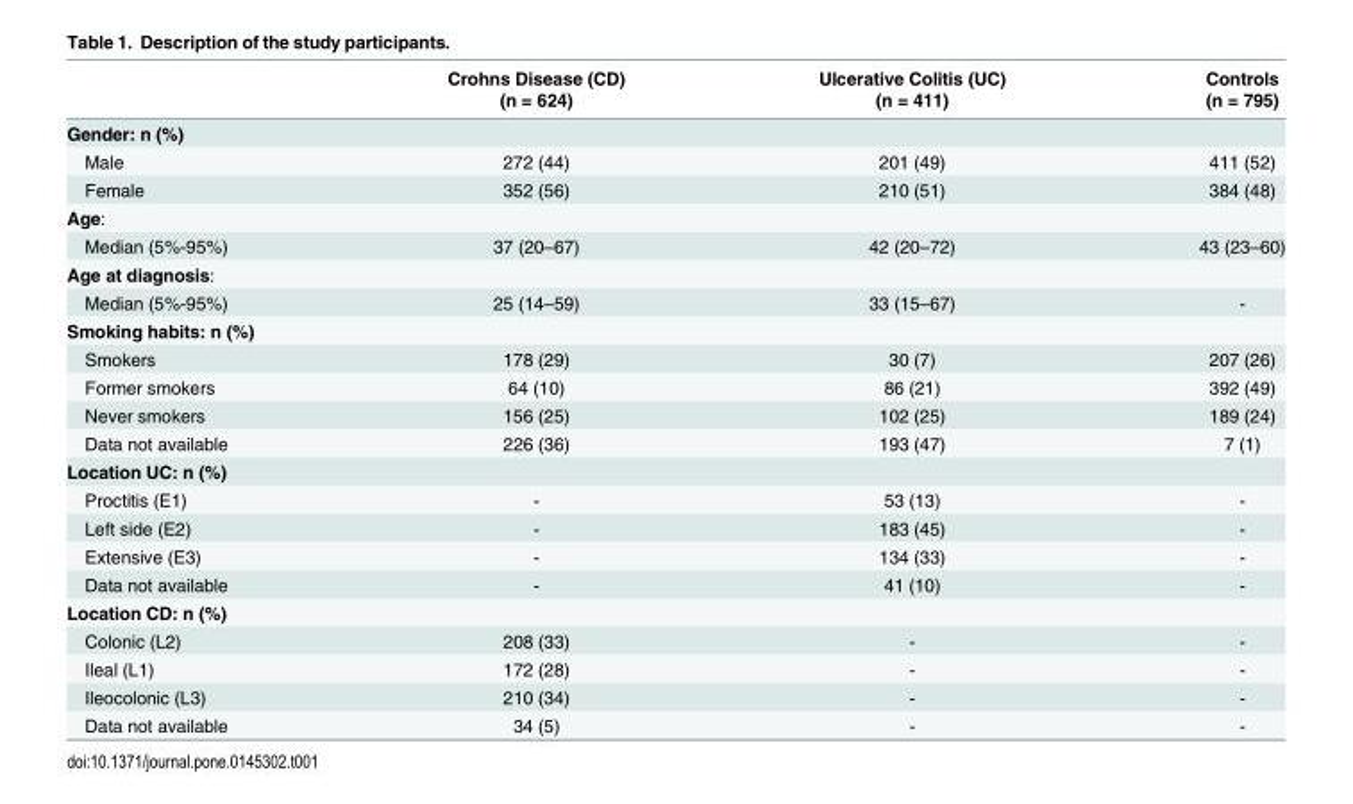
<table><thead><tr><td rowspan="2"></td><td rowspan="2">Crohns Disease (CD) (n = 624)</td><td rowspan="2">Ulcerative Colitis (UC) (n = 411)</td><td rowspan="2">Controls (n = 795)</td></tr><tr></tr></thead><tbody><tr><td colspan="4">Gender: n (%)</td></tr><tr><td>Male</td><td>272 (44)</td><td>201 (49)</td><td>411 (52)</td></tr><tr><td>Female</td><td>352 (56)</td><td>210 (51)</td><td>384 (48)</td></tr><tr><td colspan="4">Age:</td></tr><tr><td>Median (5%-95%)</td><td>37 (20–67)</td><td>42 (20–72)</td><td>43 (23–60)</td></tr><tr><td colspan="4">Age at diagnosis:</td></tr><tr><td>Median (5%-95%)</td><td>25 (14–59)</td><td>33 (15–67)</td><td>-</td></tr><tr><td colspan="4">Smoking habits: n (%)</td></tr><tr><td>Smokers</td><td>178 (29)</td><td>30 (7)</td><td>207 (26)</td></tr><tr><td>Former smokers</td><td>64 (10)</td><td>86 (21)</td><td>392 (49)</td></tr><tr><td>Never smokers</td><td>156 (25)</td><td>102 (25)</td><td>189 (24)</td></tr><tr><td>Data not available</td><td>226 (36)</td><td>193 (47)</td><td>7 (1)</td></tr><tr><td colspan="4">Location UC: n (%)</td></tr><tr><td>Proctitis (E1)</td><td>-</td><td>53 (13)</td><td>-</td></tr><tr><td>Left side (E2)</td><td>-</td><td>183 (45)</td><td>-</td></tr><tr><td>Extensive (E3)</td><td>-</td><td>134 (33)</td><td>-</td></tr><tr><td>Data not available</td><td>-</td><td>41 (10)</td><td>-</td></tr><tr><td colspan="4">Location CD: n (%)</td></tr><tr><td>Colonic (L2)</td><td>208 (33)</td><td>-</td><td>-</td></tr><tr><td>Ileal (L1)</td><td>172 (28)</td><td>-</td><td>-</td></tr><tr><td>Ileocolonic (L3)</td><td>210 (34)</td><td>-</td><td>-</td></tr><tr><td>Data not available</td><td>34 (5)</td><td>-</td><td>-</td></tr></tbody></table>